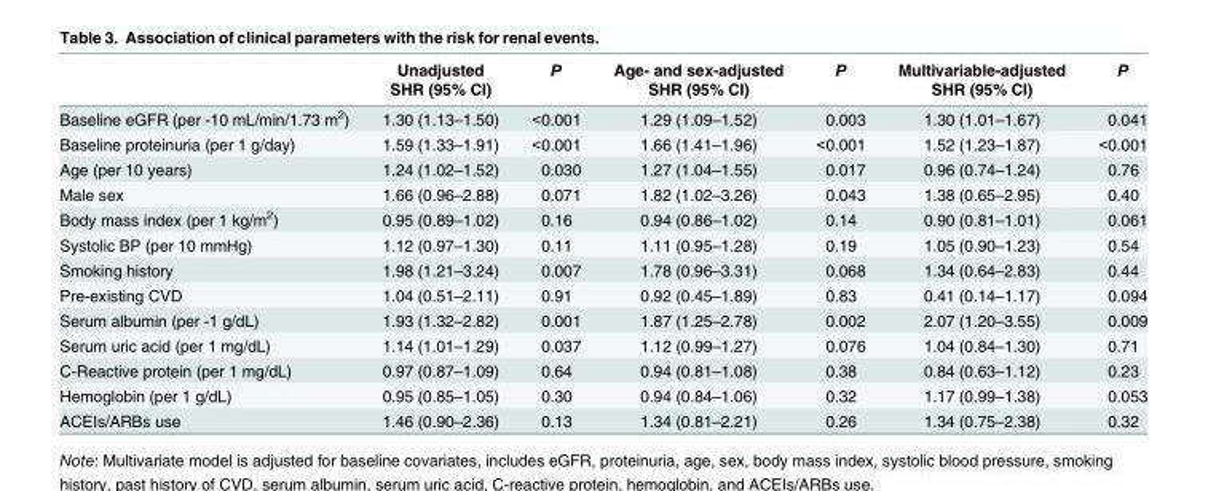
<table><thead><tr><td rowspan="2"></td><td rowspan="2">Unadjusted SHR (95% CI)</td><td rowspan="2">P</td><td rowspan="2">Age- and sex-adjusted SHR (95% CI)</td><td rowspan="2">P</td><td rowspan="2">Multivariable-adjusted SHR (95% CI)</td><td rowspan="2">P</td></tr><tr></tr></thead><tbody><tr><td>Baseline eGFR (per -10 mL/min/1.73 m<sup>2</sup>)</td><td>1.30 (1.13–1.50)</td><td>&lt;0.001</td><td>1.29 (1.09–1.52)</td><td>0.003</td><td>1.30 (1.01–1.67)</td><td>0.041</td></tr><tr><td>Baseline proteinuria (per 1 g/day)</td><td>1.59 (1.33–1.91)</td><td>&lt;0.001</td><td>1.66 (1.41–1.96)</td><td>&lt;0.001</td><td>1.52 (1.23–1.87)</td><td>&lt;0.001</td></tr><tr><td>Age (per 10 years)</td><td>1.24 (1.02–1.52)</td><td>0.030</td><td>1.27 (1.04–1.55)</td><td>0.017</td><td>0.96 (0.74–1.24)</td><td>0.76</td></tr><tr><td>Male sex</td><td>1.66 (0.96–2.88)</td><td>0.071</td><td>1.82 (1.02–3.26)</td><td>0.043</td><td>1.38 (0.65–2.95)</td><td>0.40</td></tr><tr><td>Body mass index (per 1 kg/m<sup>2</sup>)</td><td>0.95 (0.89–1.02)</td><td>0.16</td><td>0.94 (0.86–1.02)</td><td>0.14</td><td>0.90 (0.81–1.01)</td><td>0.061</td></tr><tr><td>Systolic BP (per 10 mmHg)</td><td>1.12 (0.97–1.30)</td><td>0.11</td><td>1.11 (0.95–1.28)</td><td>0.19</td><td>1.05 (0.90–1.23)</td><td>0.54</td></tr><tr><td>Smoking history</td><td>1.98 (1.21–3.24)</td><td>0.007</td><td>1.78 (0.96–3.31)</td><td>0.068</td><td>1.34 (0.64–2.83)</td><td>0.44</td></tr><tr><td>Pre-existing CVD</td><td>1.04 (0.51–2.11)</td><td>0.91</td><td>0.92 (0.45–1.89)</td><td>0.83</td><td>0.41 (0.14–1.17)</td><td>0.094</td></tr><tr><td>Serum albumin (per -1 g/dL)</td><td>1.93 (1.32–2.82)</td><td>0.001</td><td>1.87 (1.25–2.78)</td><td>0.002</td><td>2.07 (1.20–3.55)</td><td>0.009</td></tr><tr><td>Serum uric acid (per 1 mg/dL)</td><td>1.14 (1.01–1.29)</td><td>0.037</td><td>1.12 (0.99–1.27)</td><td>0.076</td><td>1.04 (0.84–1.30)</td><td>0.71</td></tr><tr><td>C-Reactive protein (per 1 mg/dL)</td><td>0.97 (0.87–1.09)</td><td>0.64</td><td>0.94 (0.81–1.08)</td><td>0.38</td><td>0.84 (0.63–1.12)</td><td>0.23</td></tr><tr><td>Hemoglobin (per 1 g/dL)</td><td>0.95 (0.85–1.05)</td><td>0.30</td><td>0.94 (0.84–1.06)</td><td>0.32</td><td>1.17 (0.99–1.38)</td><td>0.053</td></tr><tr><td>ACEIs/ARBs use</td><td>1.46 (0.90–2.36)</td><td>0.13</td><td>1.34 (0.81–2.21)</td><td>0.26</td><td>1.34 (0.75–2.38)</td><td>0.32</td></tr></tbody></table>